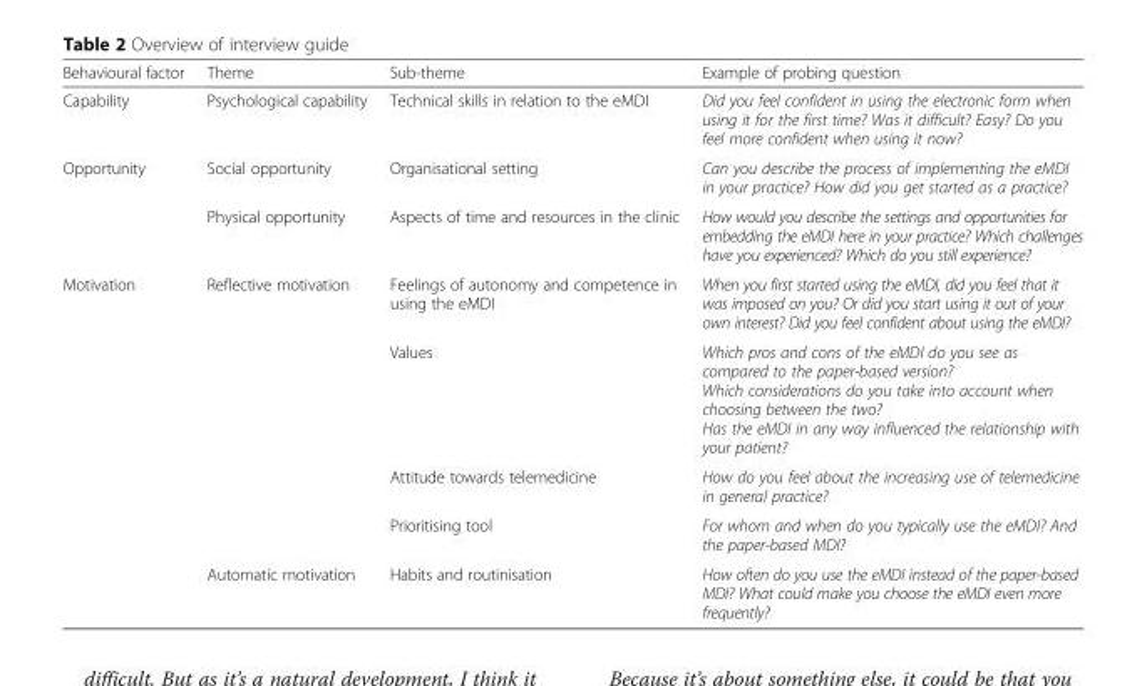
<table><thead><tr><td>Behavioural factor</td><td>Theme</td><td>Sub-theme</td><td>Example of probing question</td></tr></thead><tbody><tr><td>Capability</td><td>Psychological capability</td><td>Technical skills in relation to the eMDI</td><td>Did you feel confident in using the electronic form when using it for the first time? Was it difficult? Easy? Do you feel more confident when using it now?</td></tr><tr><td rowspan="2">Opportunity</td><td>Social opportunity</td><td>Organisational setting</td><td>Can you describe the process of implementing the eMDI in your practice? How did you get started as a practice?</td></tr><tr><td>Physical opportunity</td><td>Aspects of time and resources in the clinic</td><td>How would you describe the settings and opportunities for embedding the eMDI here in your practice? Which challenges have you experienced? Which do you still experience?</td></tr><tr><td rowspan="5">Motivation</td><td rowspan="4">Reflective motivation</td><td>Feelings of autonomy and competence in using the eMDI</td><td>When you first started using the eMDI, did you feel that it was imposed on you? Or did you start using it out of your own interest? Did you feel confident about using the eMDI?</td></tr><tr><td>Values</td><td>Which pros and cons of the eMDI do you see as compared to the paper-based version? Which considerations do you take into account when choosing between the two? Has the eMDI in any way influenced the relationship with your patient?</td></tr><tr><td>Attitude towards telemedicine</td><td>How do you feel about the increasing use of telemedicine in general practice?</td></tr><tr><td>Prioritising tool</td><td>For whom and when do you typically use the eMDI? And the paper-based MDI?</td></tr><tr><td>Automatic motivation</td><td>Habits and routinisation</td><td>How often do you use the eMDI instead of the paper-based MDI? What could make you choose the eMDI even more frequently?</td></tr></tbody></table>